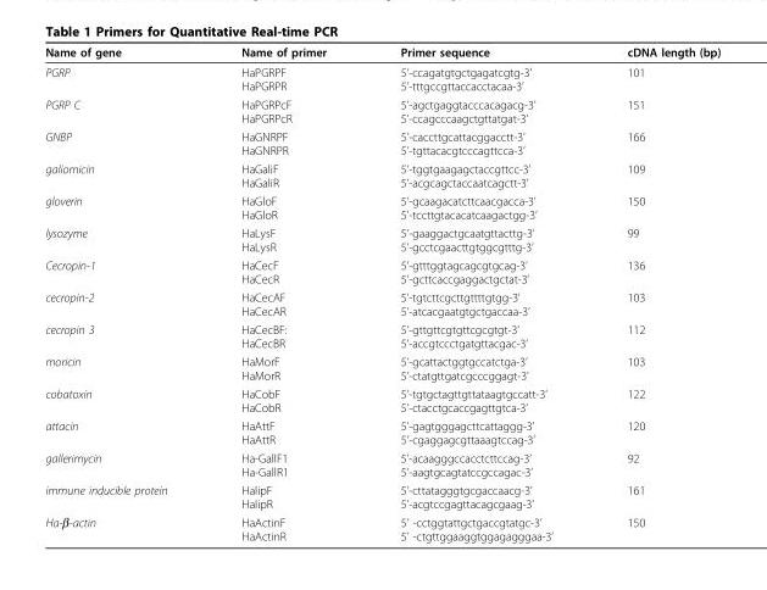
<table><thead><tr><td>Name of gene</td><td>Name of primer</td><td>Primer sequence</td><td>cDNA length (bp)</td></tr></thead><tbody><tr><td>PGRP</td><td>HaPGRPF HaPGRPR</td><td>5’-ccagatgtgctgagatcgtg-3’ 5’-tttgccgttaccacctacaa-3’</td><td>101</td></tr><tr><td>PGRP C</td><td>HaPGRPcF HaPGRPcR</td><td>5’-agctgaggtacccacagacg-3’ 5’-ccagcccaagctgttatgat-3’</td><td>151</td></tr><tr><td>GNBP</td><td>HaGNRPF HaGNRPR</td><td>5’-caccttgcattacggacctt-3’ 5’-tgttacacgtcccagttcca-3’</td><td>166</td></tr><tr><td>galiomicin</td><td>HaGaliF HaGaliR</td><td>5’-tggtgaagagctaccgttcc-3’ 5’-acgcagctaccaatcagctt-3’</td><td>109</td></tr><tr><td>gloverin</td><td>HaGloF HaGloR</td><td>5’-gcaagacatcttcaacgacca-3’ 5’-tccttgtacacatcaagactgg-3’</td><td>150</td></tr><tr><td>lysozyme</td><td>HaLysF HaLysR</td><td>5’-gaaggactgcaatgttacttg-3’ 5’-gcctcgaacttgtggcgtttg-3’</td><td>99</td></tr><tr><td>Cecropin-1</td><td>HaCecF HaCecR</td><td>5’-gtttggtagcagcgtgcag-3’ 5’-gcttcaccgaggactgctat-3’</td><td>136</td></tr><tr><td>cecropin-2</td><td>HaCecAF HaCecAR</td><td>5’-tgtcttcgcttgttttgtgg-3’ 5’-atcacgaatgtgctgaccaa-3’</td><td>103</td></tr><tr><td>cecropin 3</td><td>HaCecBF: HaCecBR</td><td>5’-gttgttcgtgttcgcgtgt-3’ 5’-accgtccctgatgttacgac-3’</td><td>112</td></tr><tr><td>moricin</td><td>HaMorF HaMorR</td><td>5’-gcattactggtgccatctga-3’ 5’-ctatgttgatcgcccggagt-3’</td><td>103</td></tr><tr><td>cobatoxin</td><td>HaCobF HaCobR</td><td>5’-tgtgctagttgttataagtgccatt-3’ 5’-ctacctgcaccgagttgtca-3’</td><td>122</td></tr><tr><td>attacin</td><td>HaAttF HaAttR</td><td>5’-gagtgggagcttcattaggg-3’ 5’-cgaggagcgttaaagtccag-3’</td><td>120</td></tr><tr><td>gallerimycin</td><td>Ha-GallF1 Ha-GallR1</td><td>5’-acaagggccacctcttccag-3’ 5’-aagtgcagtatccgccagac-3’</td><td>92</td></tr><tr><td>immune inducible protein</td><td>HaIipF HaIipR</td><td>5’-cttatagggtgcgaccaacg-3’ 5’-acgtccgagttacagcgaag-3’</td><td>161</td></tr><tr><td>Ha-β-actin</td><td>HaActinF HaActinR</td><td>5’ -cctggtattgctgaccgtatgc-3’ 5’ -ctgttggaaggtggagagggaa-3’</td><td>150</td></tr></tbody></table>